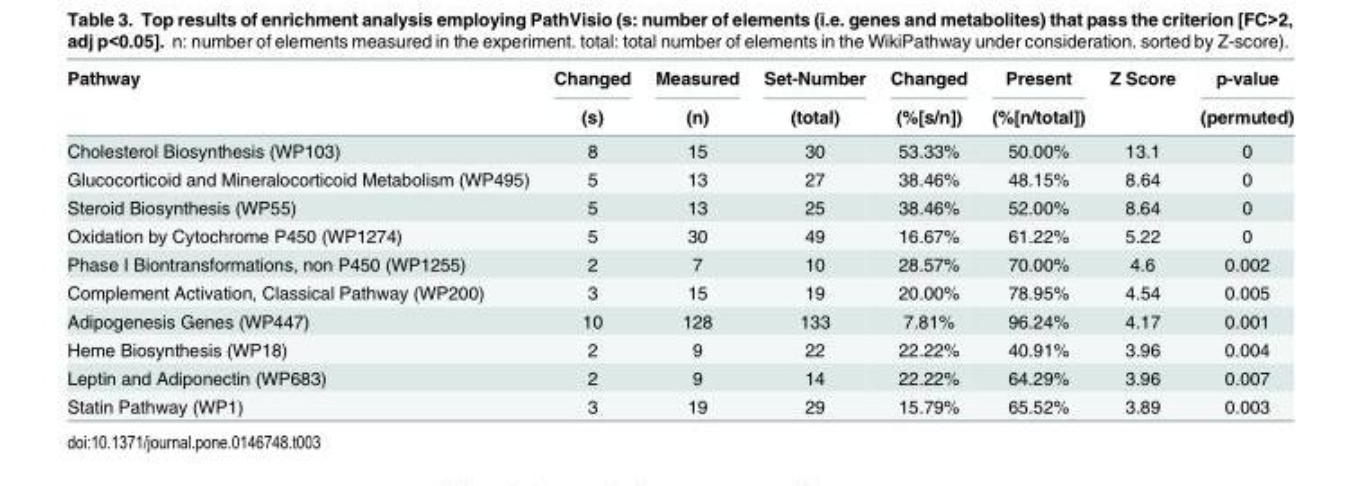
<table><thead><tr><td rowspan="2">Pathway</td><td rowspan="2">Changed (s)</td><td rowspan="2">Measured (n)</td><td rowspan="2">Set-Number (total)</td><td rowspan="2">Changed (%[s/n])</td><td rowspan="2">Present (%[n/total])</td><td rowspan="2">Z Score</td><td rowspan="2">p-value (permuted)</td></tr><tr></tr></thead><tbody><tr><td>Cholesterol Biosynthesis (WP103)</td><td>8</td><td>15</td><td>30</td><td>53.33%</td><td>50.00%</td><td>13.1</td><td>0</td></tr><tr><td>Glucocorticoid and Mineralocorticoid Metabolism (WP495)</td><td>5</td><td>13</td><td>27</td><td>38.46%</td><td>48.15%</td><td>8.64</td><td>0</td></tr><tr><td>Steroid Biosynthesis (WP55)</td><td>5</td><td>13</td><td>25</td><td>38.46%</td><td>52.00%</td><td>8.64</td><td>0</td></tr><tr><td>Oxidation by Cytochrome P450 (WP1274)</td><td>5</td><td>30</td><td>49</td><td>16.67%</td><td>61.22%</td><td>5.22</td><td>0</td></tr><tr><td>Phase I Biontransformations, non P450 (WP1255)</td><td>2</td><td>7</td><td>10</td><td>28.57%</td><td>70.00%</td><td>4.6</td><td>0.002</td></tr><tr><td>Complement Activation, Classical Pathway (WP200)</td><td>3</td><td>15</td><td>19</td><td>20.00%</td><td>78.95%</td><td>4.54</td><td>0.005</td></tr><tr><td>Adipogenesis Genes (WP447)</td><td>10</td><td>128</td><td>133</td><td>7.81%</td><td>96.24%</td><td>4.17</td><td>0.001</td></tr><tr><td>Heme Biosynthesis (WP18)</td><td>2</td><td>9</td><td>22</td><td>22.22%</td><td>40.91%</td><td>3.96</td><td>0.004</td></tr><tr><td>Leptin and Adiponectin (WP683)</td><td>2</td><td>9</td><td>14</td><td>22.22%</td><td>64.29%</td><td>3.96</td><td>0.007</td></tr><tr><td>Statin Pathway (WP1)</td><td>3</td><td>19</td><td>29</td><td>15.79%</td><td>65.52%</td><td>3.89</td><td>0.003</td></tr></tbody></table>